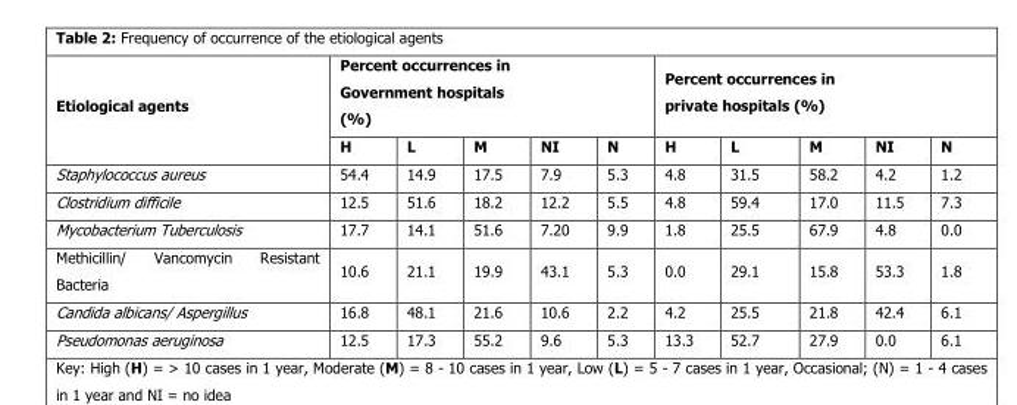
<table><thead><tr><td rowspan="2">Etiological agents</td><td colspan="5">Percent occurrences in Government hospitals (%)</td><td colspan="5">Percent occurrences in private hospitals (%)</td></tr><tr><td>H</td><td>L</td><td>M</td><td>NI</td><td>N</td><td>H</td><td>L</td><td>M</td><td>NI</td><td>N</td></tr></thead><tbody><tr><td>Staphylococcus aureus</td><td>54.4</td><td>14.9</td><td>17.5</td><td>7.9</td><td>5.3</td><td>4.8</td><td>31.5</td><td>58.2</td><td>4.2</td><td>1.2</td></tr><tr><td>Clostridium difficile</td><td>12.5</td><td>51.6</td><td>18.2</td><td>12.2</td><td>5.5</td><td>4.8</td><td>59.4</td><td>17.0</td><td>11.5</td><td>7.3</td></tr><tr><td>Mycobacterium Tuberculosis</td><td>17.7</td><td>14.1</td><td>51.6</td><td>7.20</td><td>9.9</td><td>1.8</td><td>25.5</td><td>67.9</td><td>4.8</td><td>0.0</td></tr><tr><td>Methicillin/ Vancomycin Resistant Bacteria</td><td>10.6</td><td>21.1</td><td>19.9</td><td>43.1</td><td>5.3</td><td>0.0</td><td>29.1</td><td>15.8</td><td>53.3</td><td>1.8</td></tr><tr><td>Candida albicans/ Aspergillus</td><td>16.8</td><td>48.1</td><td>21.6</td><td>10.6</td><td>2.2</td><td>4.2</td><td>25.5</td><td>21.8</td><td>42.4</td><td>6.1</td></tr><tr><td>Pseudomonas aeruginosa</td><td>12.5</td><td>17.3</td><td>55.2</td><td>9.6</td><td>5.3</td><td>13.3</td><td>52.7</td><td>27.9</td><td>0.0</td><td>6.1</td></tr></tbody></table>